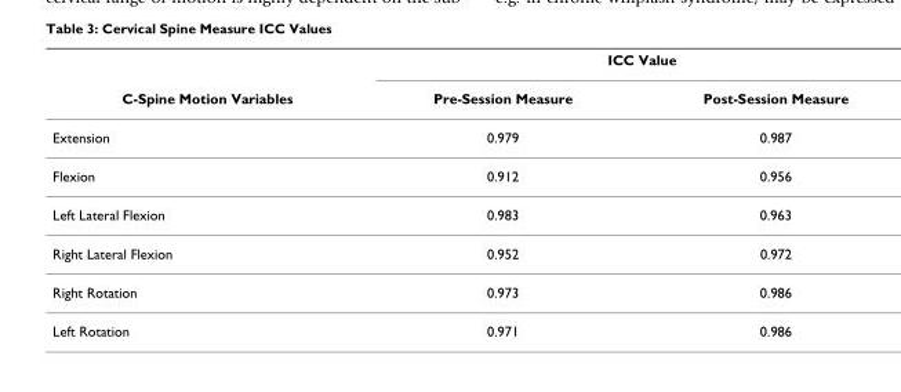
<table><thead><tr><td rowspan="2">C-Spine Motion Variables</td><td colspan="2">ICC Value</td></tr><tr><td>Pre-Session Measure</td><td>Post-Session Measure</td></tr></thead><tbody><tr><td>Extension</td><td>0.979</td><td>0.987</td></tr><tr><td>Flexion</td><td>0.912</td><td>0.956</td></tr><tr><td>Left Lateral Flexion</td><td>0.983</td><td>0.963</td></tr><tr><td>Right Lateral Flexion</td><td>0.952</td><td>0.972</td></tr><tr><td>Right Rotation</td><td>0.973</td><td>0.986</td></tr><tr><td>Left Rotation</td><td>0.971</td><td>0.986</td></tr></tbody></table>